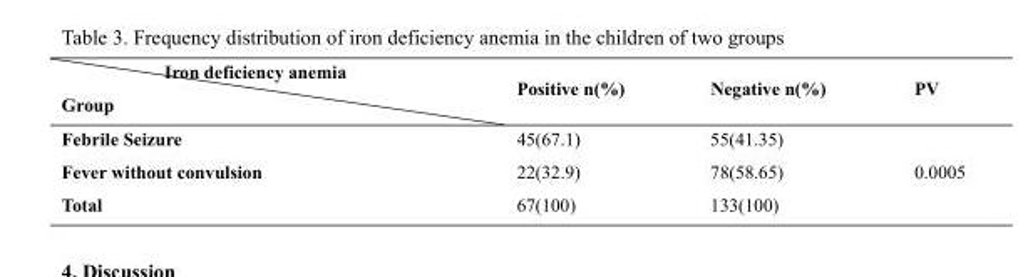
<table><thead><tr><td>Iron deficiency anemia Group</td><td>Positive n(%)</td><td>Negative n(%)</td><td>PV</td></tr></thead><tbody><tr><td>Febrile Seizure</td><td>45(67.1)</td><td>55(41.35)</td><td rowspan="3">0.0005</td></tr><tr><td>Fever without convulsion</td><td>22(32.9)</td><td>78(58.65)</td></tr><tr><td>Total</td><td>67(100)</td><td>133(100)</td></tr></tbody></table>